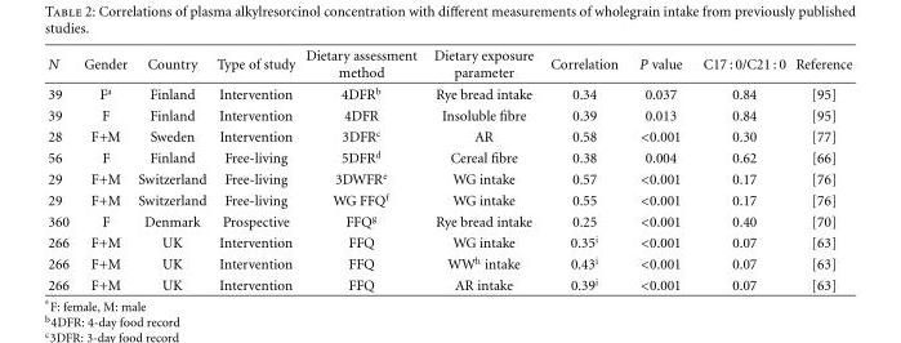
<table><thead><tr><td>N</td><td>Gender</td><td>Country</td><td>Type of study</td><td>Dietary assessment method</td><td>Dietary exposure parameter</td><td>Correlation</td><td>P value</td><td>C17 : 0/C21 : 0</td><td>Reference</td></tr></thead><tbody><tr><td>39</td><td>F<sup>a</sup></td><td>Finland</td><td>Intervention</td><td>4DFR<sup>b</sup></td><td>Rye bread intake</td><td>0.34</td><td>0.037</td><td>0.84</td><td>[95]</td></tr><tr><td>39</td><td>F</td><td>Finland</td><td>Intervention</td><td>4DFR</td><td>Insoluble fibre</td><td>0.39</td><td>0.013</td><td>0.84</td><td>[95]</td></tr><tr><td>28</td><td>F+M</td><td>Sweden</td><td>Intervention</td><td>3DFR<sup>c</sup></td><td>AR</td><td>0.58</td><td>&lt;0.001</td><td>0.30</td><td>[77]</td></tr><tr><td>56</td><td>F</td><td>Finland</td><td>Free-living</td><td>5DFR<sup>d</sup></td><td>Cereal fibre</td><td>0.38</td><td>0.004</td><td>0.62</td><td>[66]</td></tr><tr><td>29</td><td>F+M</td><td>Switzerland</td><td>Free-living</td><td>3DWFR<sup>e</sup></td><td>WG intake</td><td>0.57</td><td>&lt;0.001</td><td>0.17</td><td>[76]</td></tr><tr><td>29</td><td>F+M</td><td>Switzerland</td><td>Free-living</td><td>WG FFQ<sup>f</sup></td><td>WG intake</td><td>0.55</td><td>&lt;0.001</td><td>0.17</td><td>[76]</td></tr><tr><td>360</td><td>F</td><td>Denmark</td><td>Prospective</td><td>FFQ<sup>g</sup></td><td>Rye bread intake</td><td>0.25</td><td>&lt;0.001</td><td>0.40</td><td>[70]</td></tr><tr><td>266</td><td>F+M</td><td>UK</td><td>Intervention</td><td>FFQ</td><td>WG intake</td><td>0.35<sup>i</sup></td><td>&lt;0.001</td><td>0.07</td><td>[63]</td></tr><tr><td>266</td><td>F+M</td><td>UK</td><td>Intervention</td><td>FFQ</td><td>WW<sup>h</sup> intake</td><td>0.43<sup>i</sup></td><td>&lt;0.001</td><td>0.07</td><td>[63]</td></tr><tr><td>266</td><td>F+M</td><td>UK</td><td>Intervention</td><td>FFQ</td><td>AR intake</td><td>0.39<sup>i</sup></td><td>&lt;0.001</td><td>0.07</td><td>[63]</td></tr></tbody></table>